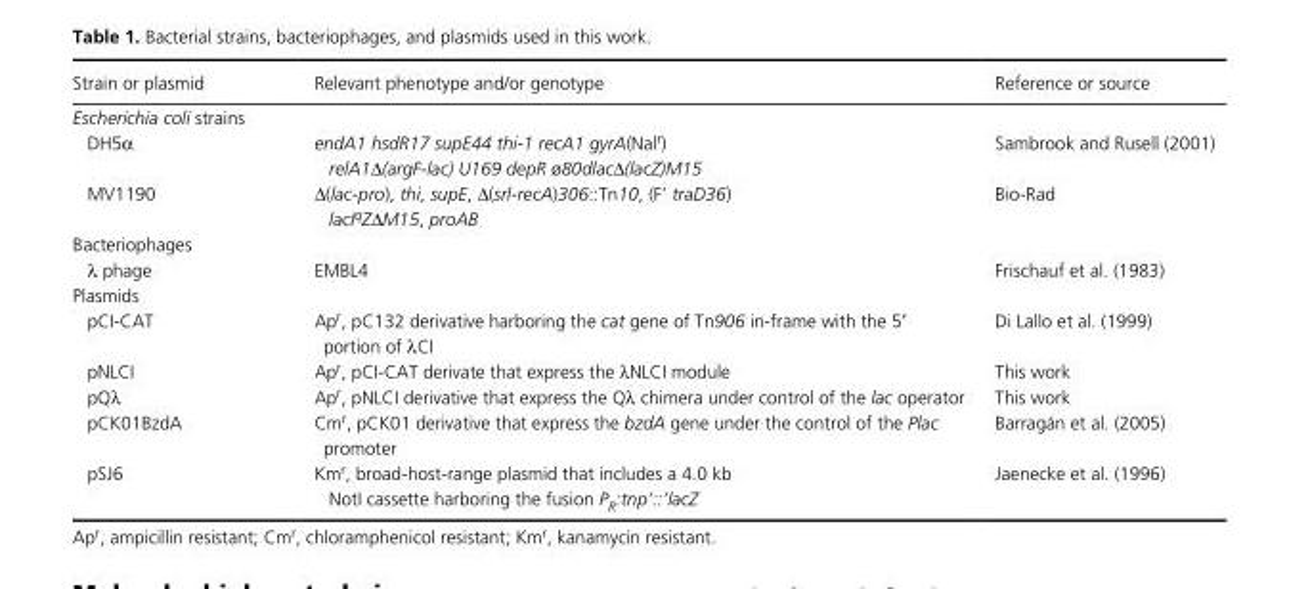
<table><thead><tr><td>Strain or plasmid</td><td>Relevant phenotype and/or genotype</td><td>Reference or source</td></tr></thead><tbody><tr><td colspan="3">Escherichia coli strains</td></tr><tr><td rowspan="2">DH5α</td><td>endA1 hsdR17 supE44 thi-1 recA1 gyrA(Nal<sup>r</sup>)</td><td>Sambrook and Rusell (2001)</td></tr><tr><td>relA1Δ(argF-lac) U169 depR ø80dlacΔ(lacZ)M15</td><td></td></tr><tr><td rowspan="2">MV1190</td><td>Δ(lac-pro), thi, supE, Δ(srl-recA)306::Tn10, (F’ traD36)</td><td>Bio- Rad</td></tr><tr><td>lacI<sup>q</sup>ZΔM15, proAB</td><td></td></tr><tr><td colspan="3">Bacteriophages</td></tr><tr><td>λ phage</td><td>EMBL4</td><td>Frischauf et al. (1983)</td></tr><tr><td colspan="3">Plasmids</td></tr><tr><td>pCI- CAT</td><td>Ap<sup>r</sup>, pC132 derivative harboring the cat gene of Tn906 in- frame with the 5′ portion of λCI</td><td>Di Lallo et al. (1999)</td></tr><tr><td>pNLCI</td><td>Ap<sup>r</sup>, pCI- CAT derivate that express the λNLCI module</td><td>This work</td></tr><tr><td>pQλ</td><td>Ap<sup>r</sup>, pNLCI derivative that express the Qλ chimera under control of the lac operator</td><td>This work</td></tr><tr><td>pCK01BzdA</td><td>Cm<sup>r</sup>, pCK01 derivative that express the bzdA gene under the control of the Plac promoter</td><td>Barragán et al. (2005)</td></tr><tr><td rowspan="2">pSJ6</td><td>Km<sup>r</sup>, broad- host- range plasmid that includes a 4.0 kb</td><td>Jaenecke et al. (1996)</td></tr><tr><td>NotI cassette harboring the fusion P<sub>R</sub>:tnp’::’lacZ</td><td></td></tr></tbody></table>